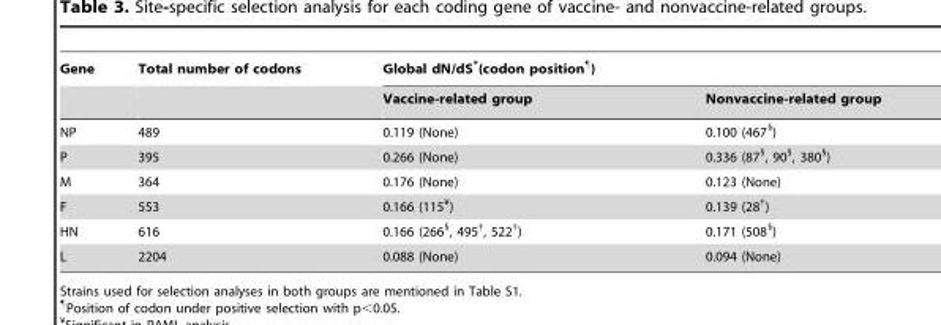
<table><thead><tr><td rowspan="2">Gene</td><td rowspan="2">Total number of codons</td><td colspan="2">Global dN/dS*(codon position¶)</td></tr><tr><td>Vaccine-related group</td><td>Nonvaccine-related group</td></tr></thead><tbody><tr><td>NP</td><td>489</td><td>0.119 (None)</td><td>0.100 (467§)</td></tr><tr><td>P</td><td>395</td><td>0.266 (None)</td><td>0.336 (87§, 90§, 380§)</td></tr><tr><td>M</td><td>364</td><td>0.176 (None)</td><td>0.123 (None)</td></tr><tr><td>F</td><td>553</td><td>0.166 (115¥)</td><td>0.139 (28†)</td></tr><tr><td>HN</td><td>616</td><td>0.166 (266§, 495†, 522†)</td><td>0.171 (508§)</td></tr><tr><td>L</td><td>2204</td><td>0.088 (None)</td><td>0.094 (None)</td></tr></tbody></table>